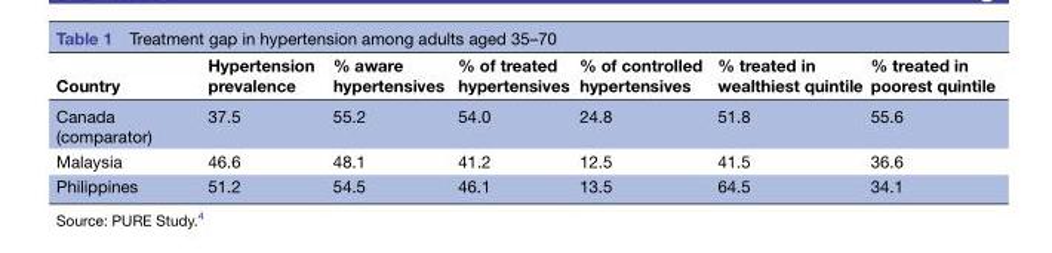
<table><thead><tr><td>Country</td><td>Hypertension prevalence</td><td>% aware hypertensives</td><td>% of treated hypertensives</td><td>% of controlled hypertensives</td><td>% treated in wealthiest quintile</td><td>% treated in poorest quintile</td></tr></thead><tbody><tr><td>Canada (comparator)</td><td>37.5</td><td>55.2</td><td>54.0</td><td>24.8</td><td>51.8</td><td>55.6</td></tr><tr><td>Malaysia</td><td>46.6</td><td>48.1</td><td>41.2</td><td>12.5</td><td>41.5</td><td>36.6</td></tr><tr><td>Philippines</td><td>51.2</td><td>54.5</td><td>46.1</td><td>13.5</td><td>64.5</td><td>34.1</td></tr></tbody></table>